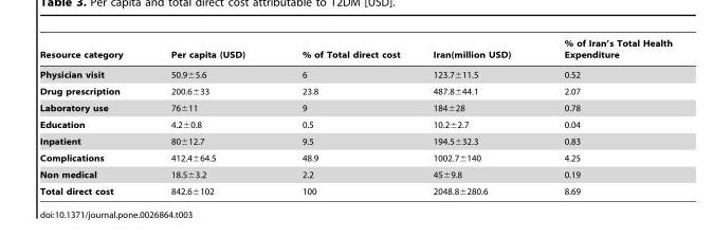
<table><thead><tr><td>Resource category</td><td>Per capita (USD)</td><td>% of Total direct cost</td><td>Iran(million USD)</td><td>% of Iran’s Total Health Expenditure</td></tr></thead><tbody><tr><td>Physician visit</td><td>50.9±5.6</td><td>6</td><td>123.7±11.5</td><td>0.52</td></tr><tr><td>Drug prescription</td><td>200.6±33</td><td>23.8</td><td>487.8±44.1</td><td>2.07</td></tr><tr><td>Laboratory use</td><td>76±11</td><td>9</td><td>184±28</td><td>0.78</td></tr><tr><td>Education</td><td>4.2±0.8</td><td>0.5</td><td>10.2±2.7</td><td>0.04</td></tr><tr><td>Inpatient</td><td>80±12.7</td><td>9.5</td><td>194.5±32.3</td><td>0.83</td></tr><tr><td>Complications</td><td>412.4±64.5</td><td>48.9</td><td>1002.7±140</td><td>4.25</td></tr><tr><td>Non medical</td><td>18.5±3.2</td><td>2.2</td><td>45±9.8</td><td>0.19</td></tr><tr><td>Total direct cost</td><td>842.6±102</td><td>100</td><td>2048.8±280.6</td><td>8.69</td></tr></tbody></table>